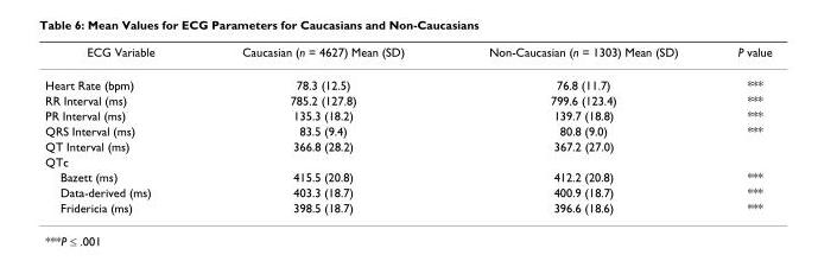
<table><thead><tr><td>ECG Variable</td><td>Caucasian (n = 4627) Mean (SD)</td><td>Non-Caucasian (n = 1303) Mean (SD)</td><td>P value</td></tr></thead><tbody><tr><td>Heart Rate (bpm)</td><td>78.3 (12.5)</td><td>76.8 (11.7)</td><td>***</td></tr><tr><td>RR Interval (ms)</td><td>785.2 (127.8)</td><td>799.6 (123.4)</td><td>***</td></tr><tr><td>PR Interval (ms)</td><td>135.3 (18.2)</td><td>139.7 (18.8)</td><td>***</td></tr><tr><td>QRS Interval (ms)</td><td>83.5 (9.4)</td><td>80.8 (9.0)</td><td>***</td></tr><tr><td>QT Interval (ms)</td><td>366.8 (28.2)</td><td>367.2 (27.0)</td><td></td></tr><tr><td colspan="4">QTc</td></tr><tr><td>Bazett (ms)</td><td>415.5 (20.8)</td><td>412.2 (20.8)</td><td>***</td></tr><tr><td>Data-derived (ms)</td><td>403.3 (18.7)</td><td>400.9 (18.7)</td><td>***</td></tr><tr><td>Fridericia (ms)</td><td>398.5 (18.7)</td><td>396.6 (18.6)</td><td>***</td></tr></tbody></table>